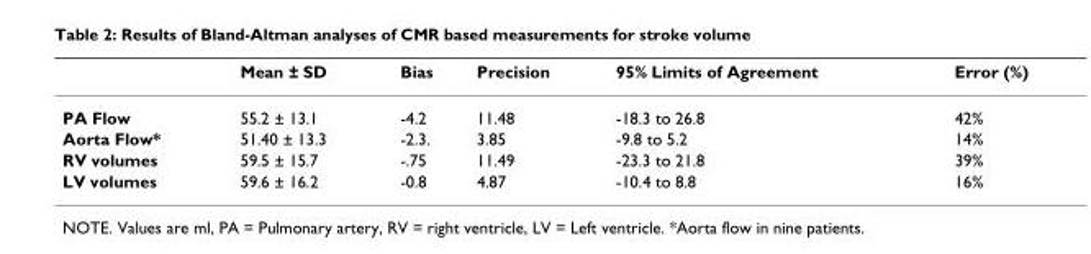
<table><thead><tr><td></td><td>Mean ± SD</td><td>Bias</td><td>Precision</td><td>95% Limits of Agreement</td><td>Error (%)</td></tr></thead><tbody><tr><td>PA Flow</td><td>55.2 ± 13.1</td><td>-4.2</td><td>11.48</td><td>-18.3 to 26.8</td><td>42%</td></tr><tr><td>Aorta Flow*</td><td>51.40 ± 13.3</td><td>-2.3.</td><td>3.85</td><td>-9.8 to 5.2</td><td>14%</td></tr><tr><td>RV volumes</td><td>59.5 ± 15.7</td><td>-.75</td><td>11.49</td><td>-23.3 to 21.8</td><td>39%</td></tr><tr><td>LV volumes</td><td>59.6 ± 16.2</td><td>-0.8</td><td>4.87</td><td>-10.4 to 8.8</td><td>16%</td></tr></tbody></table>